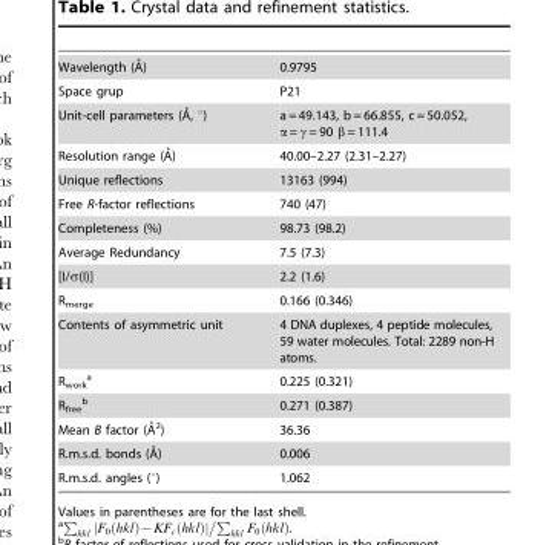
<table><tbody><tr><td>Wavelength (A˚)</td><td>0.9795</td></tr><tr><td>Space grup</td><td>P21</td></tr><tr><td>Unit-cell parameters (A˚, u)</td><td>a = 49.143, b = 66.855, c = 50.052, α = γ = 90 β = 111.4</td></tr><tr><td>Resolution range (A˚)</td><td>40.00–2.27 (2.31–2.27)</td></tr><tr><td>Unique reflections</td><td>13163 (994)</td></tr><tr><td>Free R-factor reflections</td><td>740 (47)</td></tr><tr><td>Completeness (%)</td><td>98.73 (98.2)</td></tr><tr><td>Average Redundancy</td><td>7.5 (7.3)</td></tr><tr><td>[I/σ(I)]</td><td>2.2 (1.6)</td></tr><tr><td>R<sub>merge</sub></td><td>0.166 (0.346)</td></tr><tr><td>Contents of asymmetric unit</td><td>4 DNA duplexes, 4 peptide molecules, 59 water molecules. Total: 2289 non-H atoms.</td></tr><tr><td>R<sub>work</sub> a</td><td>0.225 (0.321)</td></tr><tr><td>R<sub>free</sub> b</td><td>0.271 (0.387)</td></tr><tr><td>Mean B factor (A˚ 2)</td><td>36.36</td></tr><tr><td>R.m.s.d. bonds (A˚)</td><td>0.006</td></tr><tr><td>R.m.s.d. angles (°)</td><td>1.062</td></tr></tbody></table>